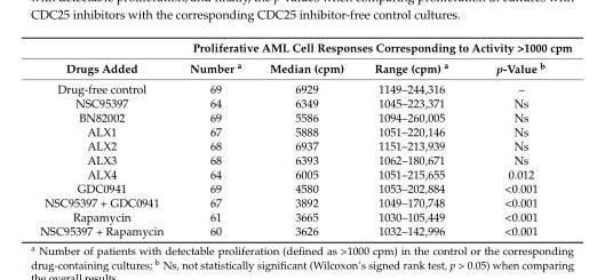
<table><thead><tr><td rowspan="2">Drugs Added</td><td colspan="4">Proliferative AML Cell Responses Corresponding to Activity &gt;1000 cpm</td></tr><tr><td>Number <sup>a</sup></td><td>Median (cpm)</td><td>Range (cpm) <sup>a</sup></td><td>p-Value <sup>b</sup></td></tr></thead><tbody><tr><td>Drug-free control</td><td>69</td><td>6929</td><td>1149–244,316</td><td>–</td></tr><tr><td>NSC95397</td><td>64</td><td>6349</td><td>1045–223,371</td><td>Ns</td></tr><tr><td>BN82002</td><td>69</td><td>5586</td><td>1094–260,005</td><td>Ns</td></tr><tr><td>ALX1</td><td>67</td><td>5888</td><td>1051–220,146</td><td>Ns</td></tr><tr><td>ALX2</td><td>68</td><td>6937</td><td>1151–213,939</td><td>Ns</td></tr><tr><td>ALX3</td><td>68</td><td>6393</td><td>1062–180,671</td><td>Ns</td></tr><tr><td>ALX4</td><td>64</td><td>6005</td><td>1051–215,655</td><td>0.012</td></tr><tr><td>GDC0941</td><td>69</td><td>4580</td><td>1053–202,884</td><td>&lt;0.001</td></tr><tr><td>NSC95397 + GDC0941</td><td>67</td><td>3892</td><td>1049–170,748</td><td>&lt;0.001</td></tr><tr><td>Rapamycin</td><td>61</td><td>3665</td><td>1030–105,449</td><td>&lt;0.001</td></tr><tr><td>NSC95397 + Rapamycin</td><td>60</td><td>3626</td><td>1032–142,996</td><td>&lt;0.001</td></tr></tbody></table>